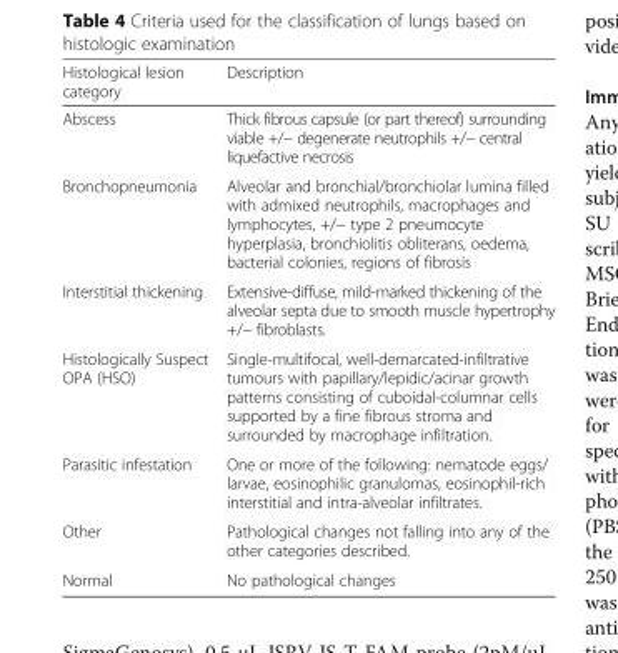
<table><thead><tr><td>Histological lesion category</td><td>Description</td></tr></thead><tbody><tr><td>Abscess</td><td>Thick fibrous capsule (or part thereof) surrounding viable +/− degenerate neutrophils +/− central liquefactive necrosis</td></tr><tr><td>Bronchopneumonia</td><td>Alveolar and bronchial/bronchiolar lumina filled with admixed neutrophils, macrophages and lymphocytes, +/− type 2 pneumocyte hyperplasia, bronchiolitis obliterans, oedema, bacterial colonies, regions of fibrosis</td></tr><tr><td>Interstitial thickening</td><td>Extensive-diffuse, mild-marked thickening of the alveolar septa due to smooth muscle hypertrophy +/− fibroblasts.</td></tr><tr><td>Histologically Suspect OPA (HSO)</td><td>Single-multifocal, well-demarcated-infiltrative tumours with papillary/lepidic/acinar growth patterns consisting of cuboidal-columnar cells supported by a fine fibrous stroma and surrounded by macrophage infiltration.</td></tr><tr><td>Parasitic infestation</td><td>One or more of the following: nematode eggs/ larvae, eosinophilic granulomas, eosinophil-rich interstitial and intra-alveolar infiltrates.</td></tr><tr><td>Other</td><td>Pathological changes not falling into any of the other categories described.</td></tr><tr><td>Normal</td><td>No pathological changes</td></tr></tbody></table>